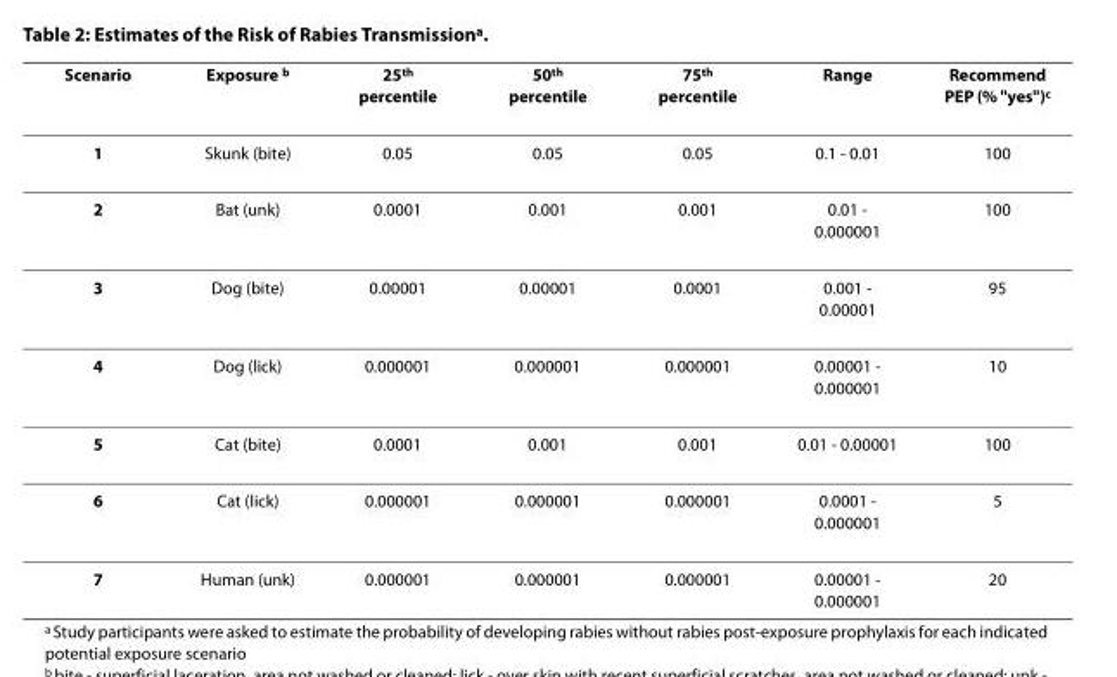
<table><thead><tr><td>Scenario</td><td>Exposure <sup>b</sup></td><td>25<sup>th</sup> percentile</td><td>50<sup>th</sup> percentile</td><td>75<sup>th</sup> percentile</td><td>Range</td><td>Recommend PEP (% &quot;yes&quot;)<sup>c</sup></td></tr></thead><tbody><tr><td>1</td><td>Skunk (bite)</td><td>0.05</td><td>0.05</td><td>0.05</td><td>0.1 - 0.01</td><td>100</td></tr><tr><td>2</td><td>Bat (unk)</td><td>0.0001</td><td>0.001</td><td>0.001</td><td>0.01 - 0.000001</td><td>100</td></tr><tr><td>3</td><td>Dog (bite)</td><td>0.00001</td><td>0.00001</td><td>0.0001</td><td>0.001 - 0.00001</td><td>95</td></tr><tr><td>4</td><td>Dog (lick)</td><td>0.000001</td><td>0.000001</td><td>0.000001</td><td>0.00001 - 0.000001</td><td>10</td></tr><tr><td>5</td><td>Cat (bite)</td><td>0.0001</td><td>0.001</td><td>0.001</td><td>0.01 - 0.00001</td><td>100</td></tr><tr><td>6</td><td>Cat (lick)</td><td>0.000001</td><td>0.000001</td><td>0.000001</td><td>0.0001 - 0.000001</td><td>5</td></tr><tr><td>7</td><td>Human (unk)</td><td>0.000001</td><td>0.000001</td><td>0.000001</td><td>0.00001 - 0.000001</td><td>20</td></tr></tbody></table>